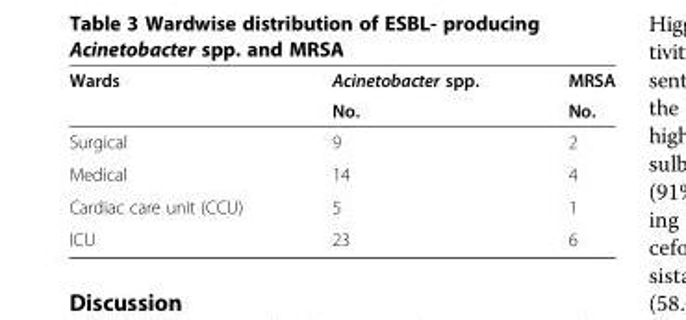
<table><thead><tr><td rowspan="2">Wards</td><td rowspan="2">Acinetobacter spp. No.</td><td rowspan="2">MRSA No.</td></tr><tr></tr></thead><tbody><tr><td>Surgical</td><td>9</td><td>2</td></tr><tr><td>Medical</td><td>14</td><td>4</td></tr><tr><td>Cardiac care unit (CCU)</td><td>5</td><td>1</td></tr><tr><td>ICU</td><td>23</td><td>6</td></tr></tbody></table>